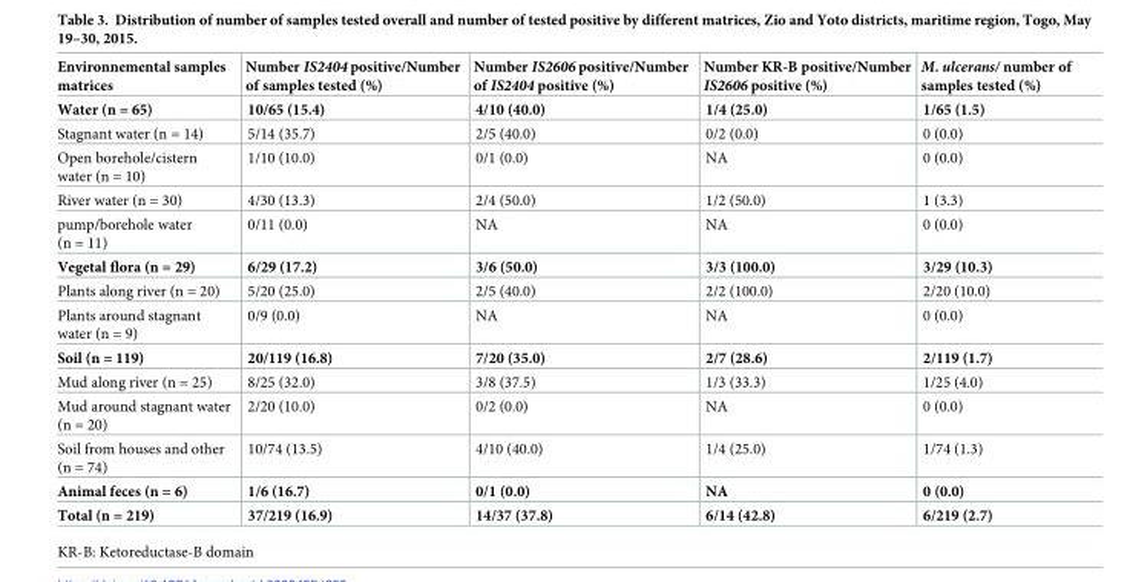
<table><thead><tr><td>Environnemental samples matrices</td><td>Number IS2404 positive/Number of samples tested (%)</td><td>Number IS2606 positive/Number of IS2404 positive (%)</td><td>Number KR-B positive/Number IS2606 positive (%)</td><td>M. ulcerans/ number of samples tested (%)</td></tr></thead><tbody><tr><td>Water (n = 65)</td><td>10/65 (15.4)</td><td>4/10 (40.0)</td><td>1/4 (25.0)</td><td>1/65 (1.5)</td></tr><tr><td>Stagnant water (n = 14)</td><td>5/14 (35.7)</td><td>2/5 (40.0)</td><td>0/2 (0.0)</td><td>0 (0.0)</td></tr><tr><td>Open borehole/cistern water (n = 10)</td><td>1/10 (10.0)</td><td>0/1 (0.0)</td><td>NA</td><td>0 (0.0)</td></tr><tr><td>River water (n = 30)</td><td>4/30 (13.3)</td><td>2/4 (50.0)</td><td>1/2 (50.0)</td><td>1 (3.3)</td></tr><tr><td>pump/borehole water (n = 11)</td><td>0/11 (0.0)</td><td>NA</td><td>NA</td><td>0 (0.0)</td></tr><tr><td>Vegetal flora (n = 29)</td><td>6/29 (17.2)</td><td>3/6 (50.0)</td><td>3/3 (100.0)</td><td>3/29 (10.3)</td></tr><tr><td>Plants along river (n = 20)</td><td>5/20 (25.0)</td><td>2/5 (40.0)</td><td>2/2 (100.0)</td><td>2/20 (10.0)</td></tr><tr><td>Plants around stagnant water (n = 9)</td><td>0/9 (0.0)</td><td>NA</td><td>NA</td><td>0 (0.0)</td></tr><tr><td>Soil (n = 119)</td><td>20/119 (16.8)</td><td>7/20 (35.0)</td><td>2/7 (28.6)</td><td>2/119 (1.7)</td></tr><tr><td>Mud along river (n = 25)</td><td>8/25 (32.0)</td><td>3/8 (37.5)</td><td>1/3 (33.3)</td><td>1/25 (4.0)</td></tr><tr><td>Mud around stagnant water (n = 20)</td><td>2/20 (10.0)</td><td>0/2 (0.0)</td><td>NA</td><td>0 (0.0)</td></tr><tr><td>Soil from houses and other (n = 74)</td><td>10/74 (13.5)</td><td>4/10 (40.0)</td><td>1/4 (25.0)</td><td>1/74 (1.3)</td></tr><tr><td>Animal feces (n = 6)</td><td>1/6 (16.7)</td><td>0/1 (0.0)</td><td>NA</td><td>0 (0.0)</td></tr><tr><td>Total (n = 219)</td><td>37/219 (16.9)</td><td>14/37 (37.8)</td><td>6/14 (42.8)</td><td>6/219 (2.7)</td></tr></tbody></table>